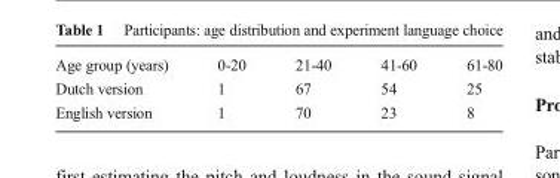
<table><tbody><tr><td>Age group (years)</td><td>0-20</td><td>21-40</td><td>41-60</td><td>61-80</td></tr><tr><td>Dutch version</td><td>1</td><td>67</td><td>54</td><td>25</td></tr><tr><td>English version</td><td>1</td><td>70</td><td>23</td><td>8</td></tr></tbody></table>